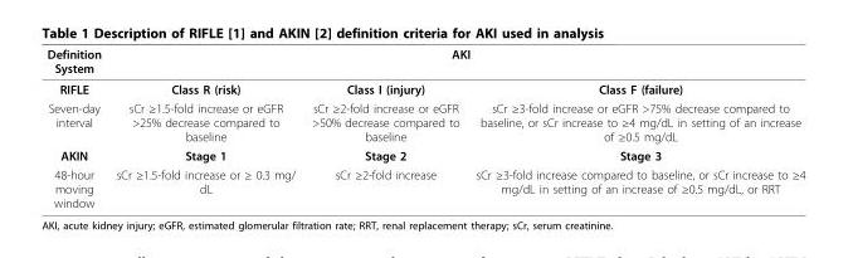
<table><thead><tr><td rowspan="2">Definition System RIFLE</td><td colspan="3">AKI</td></tr><tr><td>Class R (risk)</td><td>Class I (injury)</td><td>Class F (failure)</td></tr></thead><tbody><tr><td>Seven-day interval</td><td>sCr ≥1.5-fold increase or eGFR &gt;25% decrease compared to baseline</td><td>sCr ≥2-fold increase or eGFR &gt;50% decrease compared to baseline</td><td>sCr ≥3-fold increase or eGFR &gt;75% decrease compared to baseline, or sCr increase to ≥4 mg/dL in setting of an increase of ≥0.5 mg/dL</td></tr><tr><td>AKIN</td><td>Stage 1</td><td>Stage 2</td><td>Stage 3</td></tr><tr><td>48-hour moving window</td><td>sCr ≥1.5-fold increase or ≥ 0.3 mg/ dL</td><td>sCr ≥2-fold increase</td><td>sCr ≥3-fold increase compared to baseline, or sCr increase to ≥4 mg/dL in setting of an increase of ≥0.5 mg/dL, or RRT</td></tr></tbody></table>